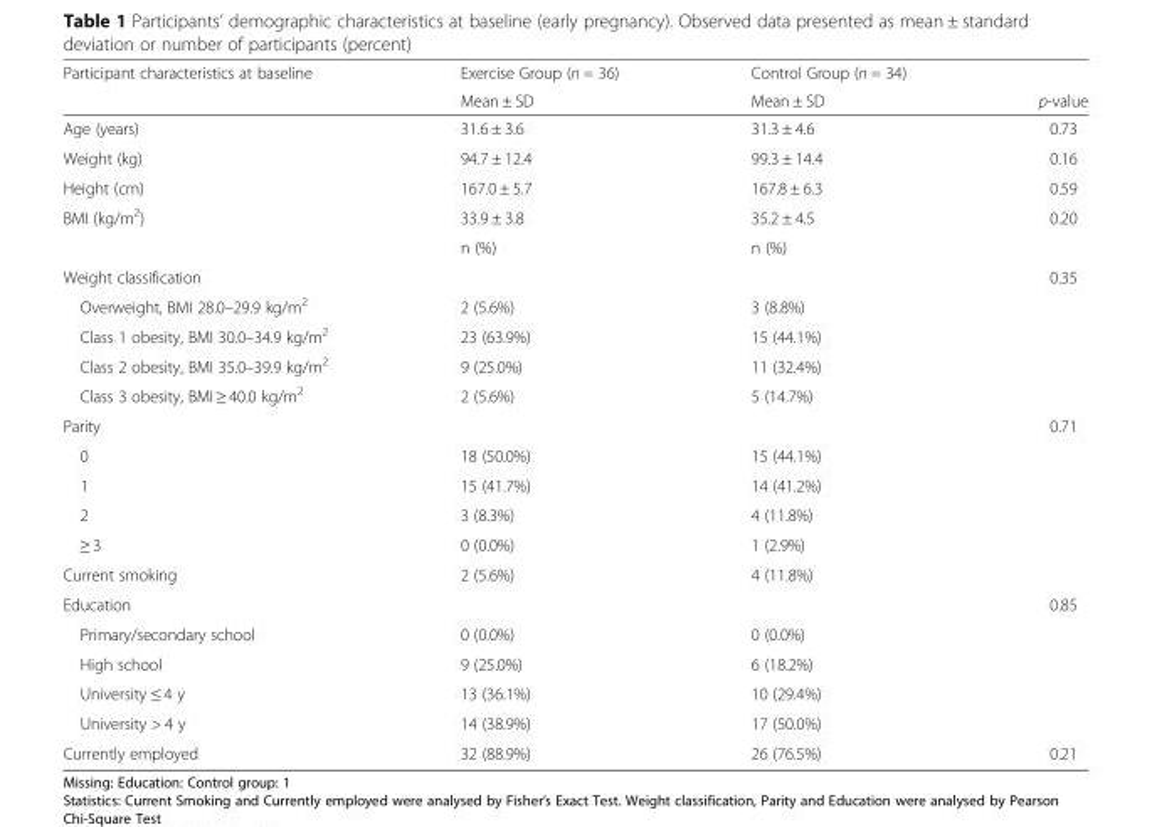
<table><thead><tr><td rowspan="2">Participant characteristics at baseline</td><td rowspan="2">Exercise Group (n = 36) Mean ± SD</td><td rowspan="2">Control Group (n = 34) Mean ± SD</td><td rowspan="2">p-value</td></tr><tr></tr></thead><tbody><tr><td>Age (years)</td><td>31.6 ± 3.6</td><td>31.3 ± 4.6</td><td>0.73</td></tr><tr><td>Weight (kg)</td><td>94.7 ± 12.4</td><td>99.3 ± 14.4</td><td>0.16</td></tr><tr><td>Height (cm)</td><td>167.0 ± 5.7</td><td>167.8 ± 6.3</td><td>0.59</td></tr><tr><td rowspan="2">BMI (kg/m<sup>2</sup>)</td><td>33.9 ± 3.8</td><td>35.2 ± 4.5</td><td>0.20</td></tr><tr><td>n (%)</td><td>n (%)</td><td></td></tr><tr><td>Weight classification</td><td></td><td></td><td>0.35</td></tr><tr><td>Overweight, BMI 28.0–29.9 kg/m<sup>2</sup></td><td>2 (5.6%)</td><td>3 (8.8%)</td><td></td></tr><tr><td>Class 1 obesity, BMI 30.0–34.9 kg/m<sup>2</sup></td><td>23 (63.9%)</td><td>15 (44.1%)</td><td></td></tr><tr><td>Class 2 obesity, BMI 35.0–39.9 kg/m<sup>2</sup></td><td>9 (25.0%)</td><td>11 (32.4%)</td><td></td></tr><tr><td>Class 3 obesity, BMI ≥ 40.0 kg/m<sup>2</sup></td><td>2 (5.6%)</td><td>5 (14.7%)</td><td></td></tr><tr><td>Parity</td><td></td><td></td><td>0.71</td></tr><tr><td>0</td><td>18 (50.0%)</td><td>15 (44.1%)</td><td></td></tr><tr><td>1</td><td>15 (41.7%)</td><td>14 (41.2%)</td><td></td></tr><tr><td>2</td><td>3 (8.3%)</td><td>4 (11.8%)</td><td></td></tr><tr><td>≥ 3</td><td>0 (0.0%)</td><td>1 (2.9%)</td><td></td></tr><tr><td>Current smoking</td><td>2 (5.6%)</td><td>4 (11.8%)</td><td></td></tr><tr><td>Education</td><td></td><td></td><td>0.85</td></tr><tr><td>Primary/secondary school</td><td>0 (0.0%)</td><td>0 (0.0%)</td><td></td></tr><tr><td>High school</td><td>9 (25.0%)</td><td>6 (18.2%)</td><td></td></tr><tr><td>University ≤ 4 y</td><td>13 (36.1%)</td><td>10 (29.4%)</td><td></td></tr><tr><td>University &gt; 4 y</td><td>14 (38.9%)</td><td>17 (50.0%)</td><td></td></tr><tr><td>Currently employed</td><td>32 (88.9%)</td><td>26 (76.5%)</td><td>0.21</td></tr></tbody></table>